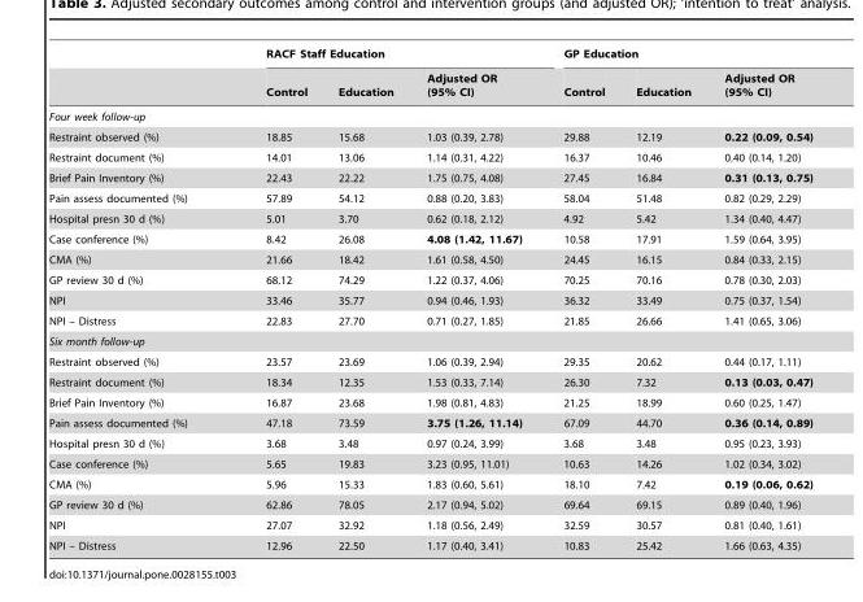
<table><thead><tr><td rowspan="2"></td><td colspan="3">RACF Staff Education</td><td colspan="3">GP Education</td></tr><tr><td>Control</td><td>Education</td><td>Adjusted OR (95% CI)</td><td>Control</td><td>Education</td><td>Adjusted OR (95% CI)</td></tr></thead><tbody><tr><td colspan="7">Four week follow-up</td></tr><tr><td>Restraint observed (%)</td><td>18.85</td><td>15.68</td><td>1.03 (0.39, 2.78)</td><td>29.88</td><td>12.19</td><td>0.22 (0.09, 0.54)</td></tr><tr><td>Restraint document (%)</td><td>14.01</td><td>13.06</td><td>1.14 (0.31, 4.22)</td><td>16.37</td><td>10.46</td><td>0.40 (0.14, 1.20)</td></tr><tr><td>Brief Pain Inventory (%)</td><td>22.43</td><td>22.22</td><td>1.75 (0.75, 4.08)</td><td>27.45</td><td>16.84</td><td>0.31 (0.13, 0.75)</td></tr><tr><td>Pain assess documented (%)</td><td>57.89</td><td>54.12</td><td>0.88 (0.20, 3.83)</td><td>58.04</td><td>51.48</td><td>0.82 (0.29, 2.29)</td></tr><tr><td>Hospital presn 30 d (%)</td><td>5.01</td><td>3.70</td><td>0.62 (0.18, 2.12)</td><td>4.92</td><td>5.42</td><td>1.34 (0.40, 4.47)</td></tr><tr><td>Case conference (%)</td><td>8.42</td><td>26.08</td><td>4.08 (1.42, 11.67)</td><td>10.58</td><td>17.91</td><td>1.59 (0.64, 3.95)</td></tr><tr><td>CMA (%)</td><td>21.66</td><td>18.42</td><td>1.61 (0.58, 4.50)</td><td>24.45</td><td>16.15</td><td>0.84 (0.33, 2.15)</td></tr><tr><td>GP review 30 d (%)</td><td>68.12</td><td>74.29</td><td>1.22 (0.37, 4.06)</td><td>70.25</td><td>70.16</td><td>0.78 (0.30, 2.03)</td></tr><tr><td>NPI</td><td>33.46</td><td>35.77</td><td>0.94 (0.46, 1.93)</td><td>36.32</td><td>33.49</td><td>0.75 (0.37, 1.54)</td></tr><tr><td>NPI – Distress</td><td>22.83</td><td>27.70</td><td>0.71 (0.27, 1.85)</td><td>21.85</td><td>26.66</td><td>1.41 (0.65, 3.06)</td></tr><tr><td colspan="7">Six month follow-up</td></tr><tr><td>Restraint observed (%)</td><td>23.57</td><td>23.69</td><td>1.06 (0.39, 2.94)</td><td>29.35</td><td>20.62</td><td>0.44 (0.17, 1.11)</td></tr><tr><td>Restraint document (%)</td><td>18.34</td><td>12.35</td><td>1.53 (0.33, 7.14)</td><td>26.30</td><td>7.32</td><td>0.13 (0.03, 0.47)</td></tr><tr><td>Brief Pain Inventory (%)</td><td>16.87</td><td>23.68</td><td>1.98 (0.81, 4.83)</td><td>21.25</td><td>18.99</td><td>0.60 (0.25, 1.47)</td></tr><tr><td>Pain assess documented (%)</td><td>47.18</td><td>73.59</td><td>3.75 (1.26, 11.14)</td><td>67.09</td><td>44.70</td><td>0.36 (0.14, 0.89)</td></tr><tr><td>Hospital presn 30 d (%)</td><td>3.68</td><td>3.48</td><td>0.97 (0.24, 3.99)</td><td>3.68</td><td>3.48</td><td>0.95 (0.23, 3.93)</td></tr><tr><td>Case conference (%)</td><td>5.65</td><td>19.83</td><td>3.23 (0.95, 11.01)</td><td>10.63</td><td>14.26</td><td>1.02 (0.34, 3.02)</td></tr><tr><td>CMA (%)</td><td>5.96</td><td>15.33</td><td>1.83 (0.60, 5.61)</td><td>18.10</td><td>7.42</td><td>0.19 (0.06, 0.62)</td></tr><tr><td>GP review 30 d (%)</td><td>62.86</td><td>78.05</td><td>2.17 (0.94, 5.02)</td><td>69.64</td><td>69.15</td><td>0.89 (0.40, 1.96)</td></tr><tr><td>NPI</td><td>27.07</td><td>32.92</td><td>1.18 (0.56, 2.49)</td><td>32.59</td><td>30.57</td><td>0.81 (0.40, 1.61)</td></tr><tr><td>NPI – Distress</td><td>12.96</td><td>22.50</td><td>1.17 (0.40, 3.41)</td><td>10.83</td><td>25.42</td><td>1.66 (0.63, 4.35)</td></tr></tbody></table>